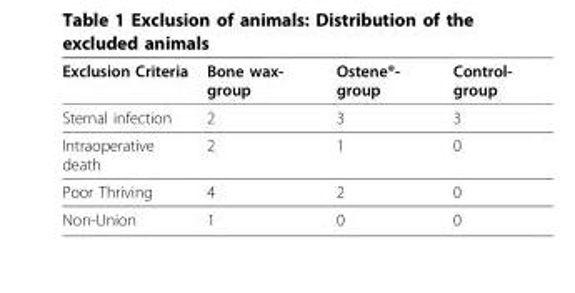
<table><thead><tr><td>Exclusion Criteria</td><td>Bone wax- group</td><td>Ostene<sup>®</sup>- group</td><td>Control- group</td></tr></thead><tbody><tr><td>Sternal infection</td><td>2</td><td>3</td><td>3</td></tr><tr><td>Intraoperative death</td><td>2</td><td>1</td><td>0</td></tr><tr><td>Poor Thriving</td><td>4</td><td>2</td><td>0</td></tr><tr><td>Non-Union</td><td>1</td><td>0</td><td>0</td></tr></tbody></table>